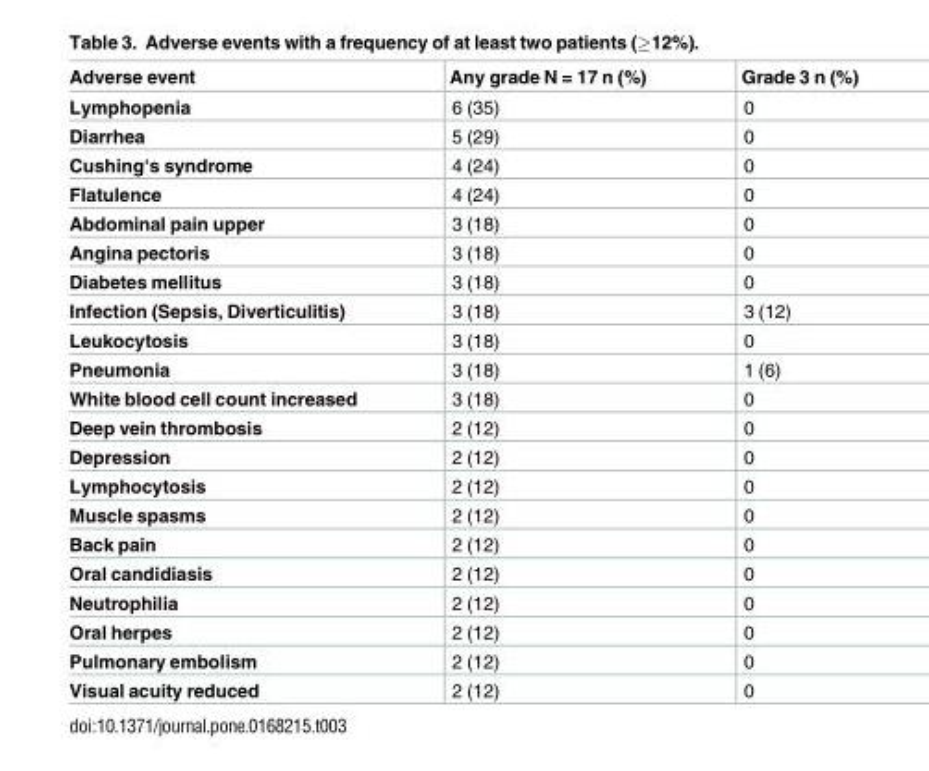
<table><thead><tr><td>Adverse event</td><td>Any grade N = 17 n (%)</td><td>Grade 3 n (%)</td></tr></thead><tbody><tr><td>Lymphopenia</td><td>6 (35)</td><td>0</td></tr><tr><td>Diarrhea</td><td>5 (29)</td><td>0</td></tr><tr><td>Cushing‘s syndrome</td><td>4 (24)</td><td>0</td></tr><tr><td>Flatulence</td><td>4 (24)</td><td>0</td></tr><tr><td>Abdominal pain upper</td><td>3 (18)</td><td>0</td></tr><tr><td>Angina pectoris</td><td>3 (18)</td><td>0</td></tr><tr><td>Diabetes mellitus</td><td>3 (18)</td><td>0</td></tr><tr><td>Infection (Sepsis, Diverticulitis)</td><td>3 (18)</td><td>3 (12)</td></tr><tr><td>Leukocytosis</td><td>3 (18)</td><td>0</td></tr><tr><td>Pneumonia</td><td>3 (18)</td><td>1 (6)</td></tr><tr><td>White blood cell count increased</td><td>3 (18)</td><td>0</td></tr><tr><td>Deep vein thrombosis</td><td>2 (12)</td><td>0</td></tr><tr><td>Depression</td><td>2 (12)</td><td>0</td></tr><tr><td>Lymphocytosis</td><td>2 (12)</td><td>0</td></tr><tr><td>Muscle spasms</td><td>2 (12)</td><td>0</td></tr><tr><td>Back pain</td><td>2 (12)</td><td>0</td></tr><tr><td>Oral candidiasis</td><td>2 (12)</td><td>0</td></tr><tr><td>Neutrophilia</td><td>2 (12)</td><td>0</td></tr><tr><td>Oral herpes</td><td>2 (12)</td><td>0</td></tr><tr><td>Pulmonary embolism</td><td>2 (12)</td><td>0</td></tr><tr><td>Visual acuity reduced</td><td>2 (12)</td><td>0</td></tr></tbody></table>